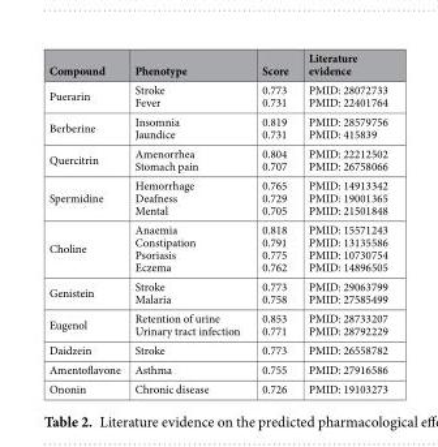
<table><thead><tr><td>Compound</td><td>Phenotype</td><td>Score</td><td>Literature evidence</td></tr></thead><tbody><tr><td>Puerarin</td><td>Stroke Fever</td><td>0.773 0.731</td><td>PMID: 28072733 PMID: 22401764</td></tr><tr><td>Berberine</td><td>Insomnia Jaundice</td><td>0.819 0.731</td><td>PMID: 28579756 PMID: 415839</td></tr><tr><td>Quercitrin</td><td>Amenorrhea Stomach pain</td><td>0.804 0.707</td><td>PMID: 22212502 PMID: 26758066</td></tr><tr><td>Spermidine</td><td>Hemorrhage Deafness Mental</td><td>0.765 0.729 0.705</td><td>PMID: 14913342 PMID: 19001365 PMID: 21501848</td></tr><tr><td>Choline</td><td>Anaemia Constipation Psoriasis Eczema</td><td>0.818 0.791 0.775 0.762</td><td>PMID: 15571243 PMID: 13135586 PMID: 10730754 PMID: 14896505</td></tr><tr><td>Genistein</td><td>Stroke Malaria</td><td>0.773 0.758</td><td>PMID: 29063799 PMID: 27585499</td></tr><tr><td>Eugenol</td><td>Retention of urine Urinary tract infection</td><td>0.853 0.771</td><td>PMID: 28733207 PMID: 28792229</td></tr><tr><td>Daidzein</td><td>Stroke</td><td>0.773</td><td>PMID: 26558782</td></tr><tr><td>Amentoflavone</td><td>Asthma</td><td>0.755</td><td>PMID: 27916586</td></tr><tr><td>Ononin</td><td>Chronic disease</td><td>0.726</td><td>PMID: 19103273</td></tr></tbody></table>